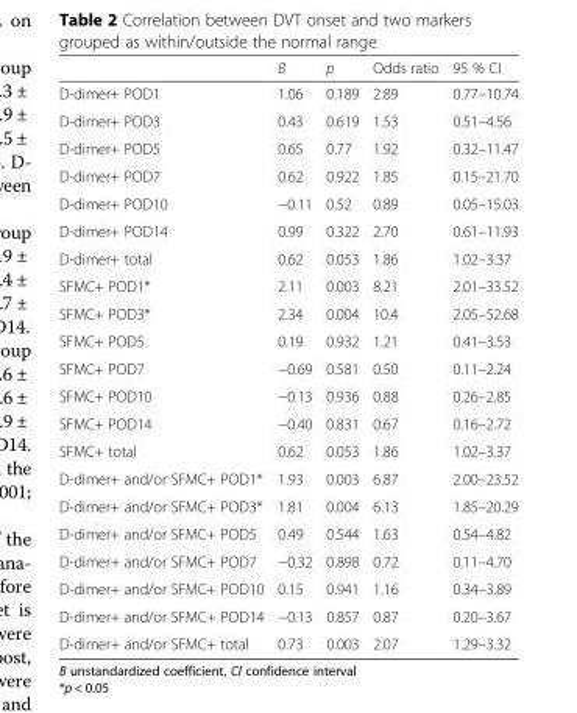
<table><thead><tr><td></td><td>B</td><td>p</td><td>Odds ratio</td><td>95 % CI</td></tr></thead><tbody><tr><td>D-dimer+ POD1</td><td>1.06</td><td>0.189</td><td>2.89</td><td>0.77–10.74</td></tr><tr><td>D-dimer+ POD3</td><td>0.43</td><td>0.619</td><td>1.53</td><td>0.51–4.56</td></tr><tr><td>D-dimer+ POD5</td><td>0.65</td><td>0.77</td><td>1.92</td><td>0.32–11.47</td></tr><tr><td>D-dimer+ POD7</td><td>0.62</td><td>0.922</td><td>1.85</td><td>0.15–21.70</td></tr><tr><td>D-dimer+ POD10</td><td>−0.11</td><td>0.52</td><td>0.89</td><td>0.05–15.03</td></tr><tr><td>D-dimer+ POD14</td><td>0.99</td><td>0.322</td><td>2.70</td><td>0.61–11.93</td></tr><tr><td>D-dimer+ total</td><td>0.62</td><td>0.053</td><td>1.86</td><td>1.02–3.37</td></tr><tr><td>SFMC+ POD1*</td><td>2.11</td><td>0.003</td><td>8.21</td><td>2.01–33.52</td></tr><tr><td>SFMC+ POD3*</td><td>2.34</td><td>0.004</td><td>10.4</td><td>2.05–52.68</td></tr><tr><td>SFMC+ POD5</td><td>0.19</td><td>0.932</td><td>1.21</td><td>0.41–3.53</td></tr><tr><td>SFMC+ POD7</td><td>−0.69</td><td>0.581</td><td>0.50</td><td>0.11–2.24</td></tr><tr><td>SFMC+ POD10</td><td>−0.13</td><td>0.936</td><td>0.88</td><td>0.26–2.85</td></tr><tr><td>SFMC+ POD14</td><td>−0.40</td><td>0.831</td><td>0.67</td><td>0.16–2.72</td></tr><tr><td>SFMC+ total</td><td>0.62</td><td>0.053</td><td>1.86</td><td>1.02–3.37</td></tr><tr><td>D-dimer+ and/or SFMC+ POD1*</td><td>1.93</td><td>0.003</td><td>6.87</td><td>2.00–23.52</td></tr><tr><td>D-dimer+ and/or SFMC+ POD3*</td><td>1.81</td><td>0.004</td><td>6.13</td><td>1.85–20.29</td></tr><tr><td>D-dimer+ and/or SFMC+ POD5</td><td>0.49</td><td>0.544</td><td>1.63</td><td>0.54–4.82</td></tr><tr><td>D-dimer+ and/or SFMC+ POD7</td><td>−0.32</td><td>0.898</td><td>0.72</td><td>0.11–4.70</td></tr><tr><td>D-dimer+ and/or SFMC+ POD10</td><td>0.15</td><td>0.941</td><td>1.16</td><td>0.34–3.89</td></tr><tr><td>D-dimer+ and/or SFMC+ POD14</td><td>−0.13</td><td>0.857</td><td>0.87</td><td>0.20–3.67</td></tr><tr><td>D-dimer+ and/or SFMC+ total</td><td>0.73</td><td>0.003</td><td>2.07</td><td>1.29–3.32</td></tr></tbody></table>